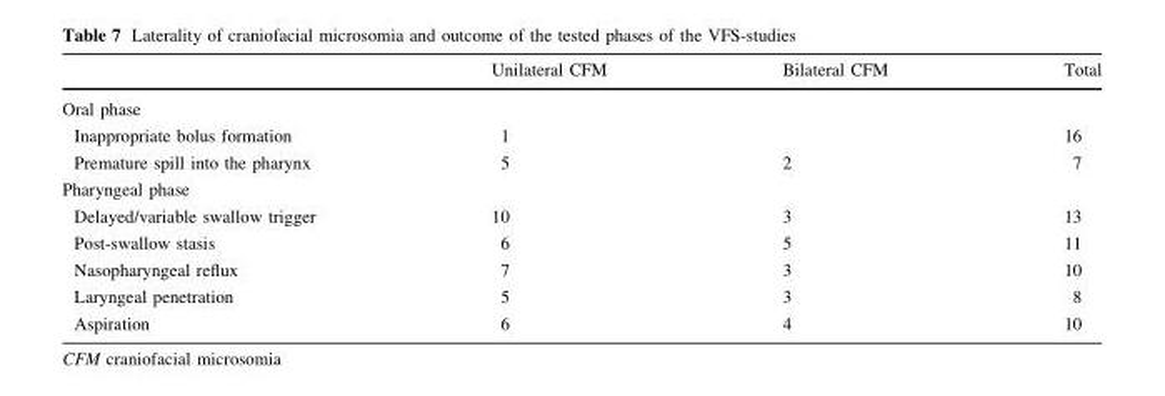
<table><thead><tr><td></td><td>Unilateral CFM</td><td>Bilateral CFM</td><td>Total</td></tr></thead><tbody><tr><td colspan="4">Oral phase</td></tr><tr><td>Inappropriate bolus formation</td><td>1</td><td></td><td>16</td></tr><tr><td>Premature spill into the pharynx</td><td>5</td><td>2</td><td>7</td></tr><tr><td colspan="4">Pharyngeal phase</td></tr><tr><td>Delayed/variable swallow trigger</td><td>10</td><td>3</td><td>13</td></tr><tr><td>Post-swallow stasis</td><td>6</td><td>5</td><td>11</td></tr><tr><td>Nasopharyngeal reflux</td><td>7</td><td>3</td><td>10</td></tr><tr><td>Laryngeal penetration</td><td>5</td><td>3</td><td>8</td></tr><tr><td>Aspiration</td><td>6</td><td>4</td><td>10</td></tr></tbody></table>